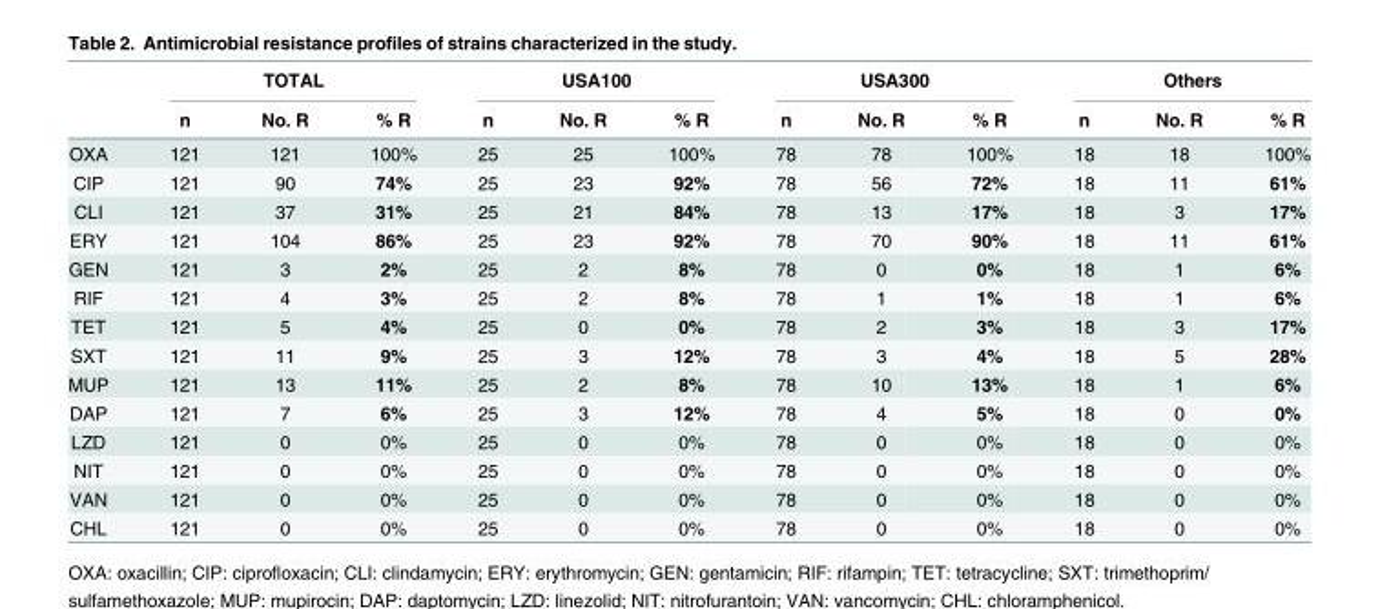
<table><thead><tr><td rowspan="2"></td><td colspan="3">TOTAL</td><td colspan="3">USA100</td><td colspan="3">USA300</td><td colspan="3">Others</td></tr><tr><td>n</td><td>No. R</td><td>% R</td><td>n</td><td>No. R</td><td>% R</td><td>n</td><td>No. R</td><td>% R</td><td>n</td><td>No. R</td><td>% R</td></tr></thead><tbody><tr><td>OXA</td><td>121</td><td>121</td><td>100%</td><td>25</td><td>25</td><td>100%</td><td>78</td><td>78</td><td>100%</td><td>18</td><td>18</td><td>100%</td></tr><tr><td>CIP</td><td>121</td><td>90</td><td>74%</td><td>25</td><td>23</td><td>92%</td><td>78</td><td>56</td><td>72%</td><td>18</td><td>11</td><td>61%</td></tr><tr><td>CLI</td><td>121</td><td>37</td><td>31%</td><td>25</td><td>21</td><td>84%</td><td>78</td><td>13</td><td>17%</td><td>18</td><td>3</td><td>17%</td></tr><tr><td>ERY</td><td>121</td><td>104</td><td>86%</td><td>25</td><td>23</td><td>92%</td><td>78</td><td>70</td><td>90%</td><td>18</td><td>11</td><td>61%</td></tr><tr><td>GEN</td><td>121</td><td>3</td><td>2%</td><td>25</td><td>2</td><td>8%</td><td>78</td><td>0</td><td>0%</td><td>18</td><td>1</td><td>6%</td></tr><tr><td>RIF</td><td>121</td><td>4</td><td>3%</td><td>25</td><td>2</td><td>8%</td><td>78</td><td>1</td><td>1%</td><td>18</td><td>1</td><td>6%</td></tr><tr><td>TET</td><td>121</td><td>5</td><td>4%</td><td>25</td><td>0</td><td>0%</td><td>78</td><td>2</td><td>3%</td><td>18</td><td>3</td><td>17%</td></tr><tr><td>SXT</td><td>121</td><td>11</td><td>9%</td><td>25</td><td>3</td><td>12%</td><td>78</td><td>3</td><td>4%</td><td>18</td><td>5</td><td>28%</td></tr><tr><td>MUP</td><td>121</td><td>13</td><td>11%</td><td>25</td><td>2</td><td>8%</td><td>78</td><td>10</td><td>13%</td><td>18</td><td>1</td><td>6%</td></tr><tr><td>DAP</td><td>121</td><td>7</td><td>6%</td><td>25</td><td>3</td><td>12%</td><td>78</td><td>4</td><td>5%</td><td>18</td><td>0</td><td>0%</td></tr><tr><td>LZD</td><td>121</td><td>0</td><td>0%</td><td>25</td><td>0</td><td>0%</td><td>78</td><td>0</td><td>0%</td><td>18</td><td>0</td><td>0%</td></tr><tr><td>NIT</td><td>121</td><td>0</td><td>0%</td><td>25</td><td>0</td><td>0%</td><td>78</td><td>0</td><td>0%</td><td>18</td><td>0</td><td>0%</td></tr><tr><td>VAN</td><td>121</td><td>0</td><td>0%</td><td>25</td><td>0</td><td>0%</td><td>78</td><td>0</td><td>0%</td><td>18</td><td>0</td><td>0%</td></tr><tr><td>CHL</td><td>121</td><td>0</td><td>0%</td><td>25</td><td>0</td><td>0%</td><td>78</td><td>0</td><td>0%</td><td>18</td><td>0</td><td>0%</td></tr></tbody></table>